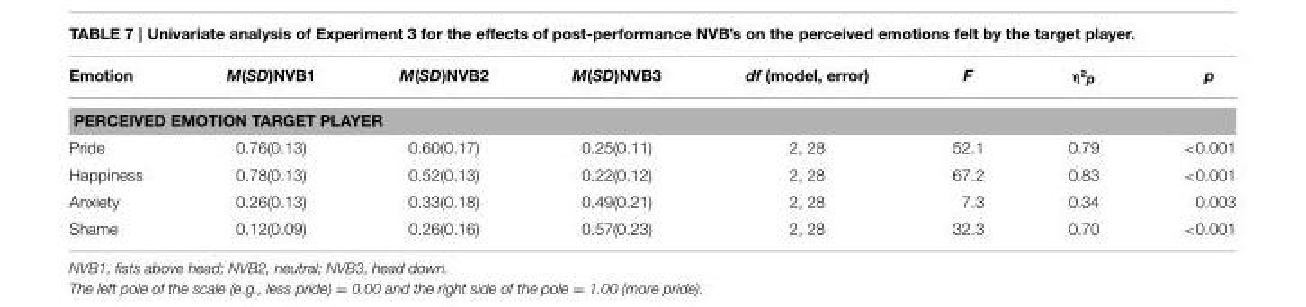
<table><thead><tr><td>Emotion</td><td>M(SD)NVB1</td><td>M(SD)NVB2</td><td>M(SD)NVB3</td><td>df (model, error)</td><td>F</td><td>η²p</td><td>p</td></tr></thead><tbody><tr><td colspan="8">PERCEIVED EMOTION TARGET PLAYER</td></tr><tr><td>Pride</td><td>0.76(0.13)</td><td>0.60(0.17)</td><td>0.25(0.11)</td><td>2, 28</td><td>52.1</td><td>0.79</td><td>&lt;0.001</td></tr><tr><td>Happiness</td><td>0.78(0.13)</td><td>0.52(0.13)</td><td>0.22(0.12)</td><td>2, 28</td><td>67.2</td><td>0.83</td><td>&lt;0.001</td></tr><tr><td>Anxiety</td><td>0.26(0.13)</td><td>0.33(0.18)</td><td>0.49(0.21)</td><td>2, 28</td><td>7.3</td><td>0.34</td><td>0.003</td></tr><tr><td>Shame</td><td>0.12(0.09)</td><td>0.26(0.16)</td><td>0.57(0.23)</td><td>2, 28</td><td>32.3</td><td>0.70</td><td>&lt;0.001</td></tr></tbody></table>